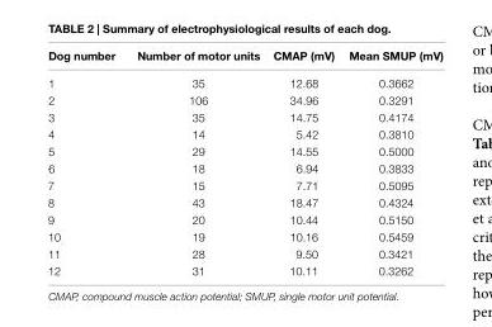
<table><thead><tr><td>dog number</td><td>Number of motor units</td><td>CMAP (mV)</td><td>Mean sMUP (mV)</td></tr></thead><tbody><tr><td>1</td><td>35</td><td>12.68</td><td>0.3662</td></tr><tr><td>2</td><td>106</td><td>34.96</td><td>0.3291</td></tr><tr><td>3</td><td>35</td><td>14.75</td><td>0.4174</td></tr><tr><td>4</td><td>14</td><td>5.42</td><td>0.3810</td></tr><tr><td>5</td><td>29</td><td>14.55</td><td>0.5000</td></tr><tr><td>6</td><td>18</td><td>6.94</td><td>0.3833</td></tr><tr><td>7</td><td>15</td><td>7.71</td><td>0.5095</td></tr><tr><td>8</td><td>43</td><td>18.47</td><td>0.4324</td></tr><tr><td>9</td><td>20</td><td>10.44</td><td>0.5150</td></tr><tr><td>10</td><td>19</td><td>10.16</td><td>0.5459</td></tr><tr><td>11</td><td>28</td><td>9.50</td><td>0.3421</td></tr><tr><td>12</td><td>31</td><td>10.11</td><td>0.3262</td></tr></tbody></table>